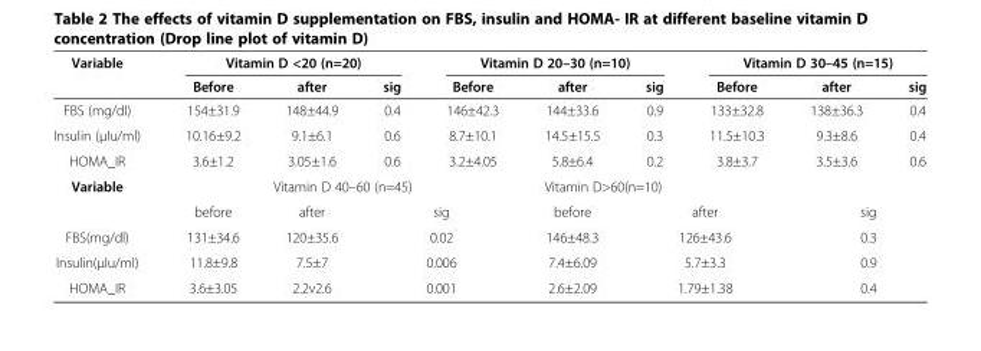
<table><thead><tr><td rowspan="2">Variable</td><td colspan="3">Vitamin D &lt;20 (n=20)</td><td colspan="3">Vitamin D 20–30 (n=10)</td><td colspan="3">Vitamin D 30–45 (n=15)</td></tr><tr><td>Before</td><td>after</td><td>sig</td><td>Before</td><td>after</td><td>sig</td><td>Before</td><td>after</td><td>sig</td></tr></thead><tbody><tr><td>FBS (mg/dl)</td><td>154±31.9</td><td>148±44.9</td><td>0.4</td><td>146±42.3</td><td>144±33.6</td><td>0.9</td><td>133±32.8</td><td>138±36.3</td><td>0.4</td></tr><tr><td>Insulin (μIu/ml)</td><td>10.16±9.2</td><td>9.1±6.1</td><td>0.6</td><td>8.7±10.1</td><td>14.5±15.5</td><td>0.3</td><td>11.5±10.3</td><td>9.3±8.6</td><td>0.4</td></tr><tr><td>HOMA_IR</td><td>3.6±1.2</td><td>3.05±1.6</td><td>0.6</td><td>3.2±4.05</td><td>5.8±6.4</td><td>0.2</td><td>3.8±3.7</td><td>3.5±3.6</td><td>0.6</td></tr><tr><td rowspan="2">Variable</td><td colspan="4">Vitamin D 40–60 (n=45)</td><td colspan="5">Vitamin D&gt;60(n=10)</td></tr><tr><td>before</td><td>after</td><td colspan="2">sig</td><td>before</td><td colspan="2">after</td><td colspan="2">sig</td></tr><tr><td>FBS(mg/dl)</td><td>131±34.6</td><td>120±35.6</td><td colspan="2">0.02</td><td>146±48.3</td><td colspan="2">126±43.6</td><td colspan="2">0.3</td></tr><tr><td>Insulin(μIu/ml)</td><td>11.8±9.8</td><td>7.5±7</td><td colspan="2">0.006</td><td>7.4±6.09</td><td colspan="2">5.7±3.3</td><td colspan="2">0.9</td></tr><tr><td>HOMA_IR</td><td>3.6±3.05</td><td>2.2v2.6</td><td colspan="2">0.001</td><td>2.6±2.09</td><td colspan="2">1.79±1.38</td><td colspan="2">0.4</td></tr></tbody></table>